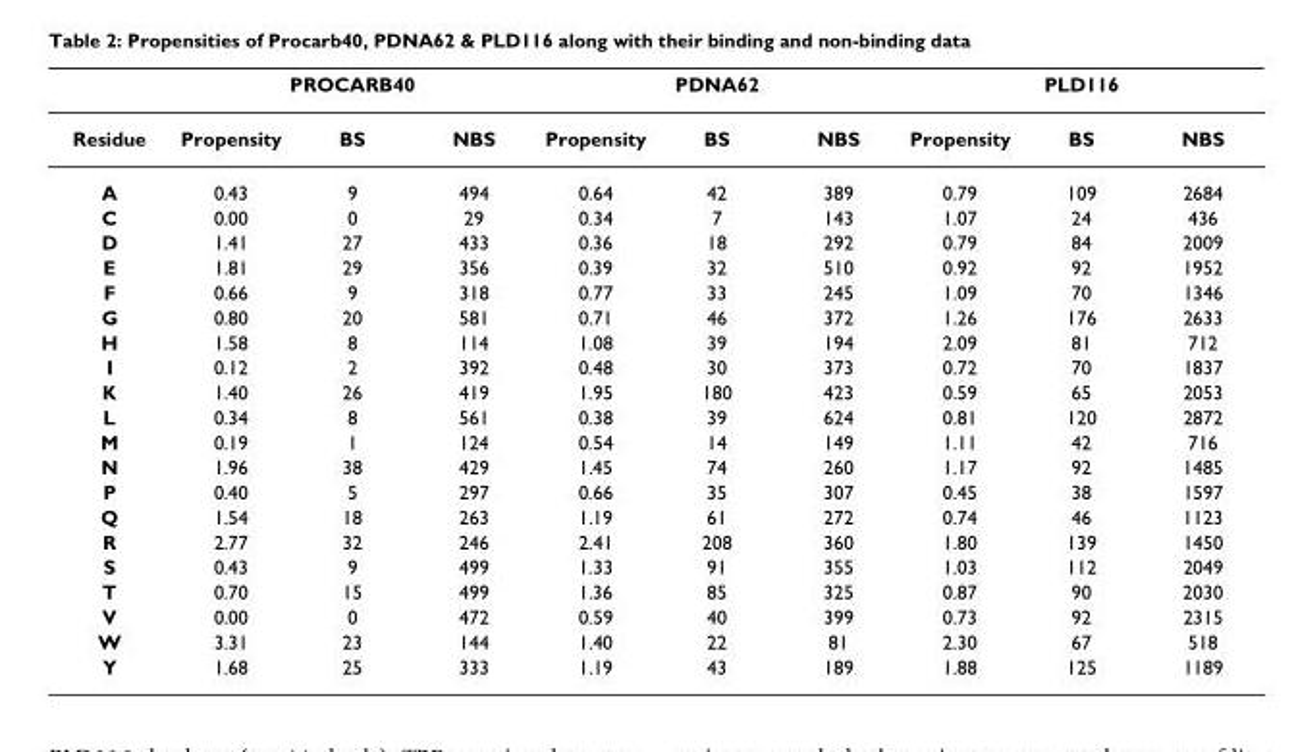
<table><thead><tr><td rowspan="2">Residue</td><td colspan="3">PROCARB40</td><td colspan="3">PDNA62</td><td colspan="3">PLD116</td></tr><tr><td>Propensity</td><td>BS</td><td>NBS</td><td>Propensity</td><td>BS</td><td>NBS</td><td>Propensity</td><td>BS</td><td>NBS</td></tr></thead><tbody><tr><td>A</td><td>0.43</td><td>9</td><td>494</td><td>0.64</td><td>42</td><td>389</td><td>0.79</td><td>109</td><td>2684</td></tr><tr><td>C</td><td>0.00</td><td>0</td><td>29</td><td>0.34</td><td>7</td><td>143</td><td>1.07</td><td>24</td><td>436</td></tr><tr><td>D</td><td>1.41</td><td>27</td><td>433</td><td>0.36</td><td>18</td><td>292</td><td>0.79</td><td>84</td><td>2009</td></tr><tr><td>E</td><td>1.81</td><td>29</td><td>356</td><td>0.39</td><td>32</td><td>510</td><td>0.92</td><td>92</td><td>1952</td></tr><tr><td>F</td><td>0.66</td><td>9</td><td>318</td><td>0.77</td><td>33</td><td>245</td><td>1.09</td><td>70</td><td>1346</td></tr><tr><td>G</td><td>0.80</td><td>20</td><td>581</td><td>0.71</td><td>46</td><td>372</td><td>1.26</td><td>176</td><td>2633</td></tr><tr><td>H</td><td>1.58</td><td>8</td><td>114</td><td>1.08</td><td>39</td><td>194</td><td>2.09</td><td>81</td><td>712</td></tr><tr><td>I</td><td>0.12</td><td>2</td><td>392</td><td>0.48</td><td>30</td><td>373</td><td>0.72</td><td>70</td><td>1837</td></tr><tr><td>K</td><td>1.40</td><td>26</td><td>419</td><td>1.95</td><td>180</td><td>423</td><td>0.59</td><td>65</td><td>2053</td></tr><tr><td>L</td><td>0.34</td><td>8</td><td>561</td><td>0.38</td><td>39</td><td>624</td><td>0.81</td><td>120</td><td>2872</td></tr><tr><td>M</td><td>0.19</td><td>1</td><td>124</td><td>0.54</td><td>14</td><td>149</td><td>1.11</td><td>42</td><td>716</td></tr><tr><td>N</td><td>1.96</td><td>38</td><td>429</td><td>1.45</td><td>74</td><td>260</td><td>1.17</td><td>92</td><td>1485</td></tr><tr><td>P</td><td>0.40</td><td>5</td><td>297</td><td>0.66</td><td>35</td><td>307</td><td>0.45</td><td>38</td><td>1597</td></tr><tr><td>Q</td><td>1.54</td><td>18</td><td>263</td><td>1.19</td><td>61</td><td>272</td><td>0.74</td><td>46</td><td>1123</td></tr><tr><td>R</td><td>2.77</td><td>32</td><td>246</td><td>2.41</td><td>208</td><td>360</td><td>1.80</td><td>139</td><td>1450</td></tr><tr><td>S</td><td>0.43</td><td>9</td><td>499</td><td>1.33</td><td>91</td><td>355</td><td>1.03</td><td>112</td><td>2049</td></tr><tr><td>T</td><td>0.70</td><td>15</td><td>499</td><td>1.36</td><td>85</td><td>325</td><td>0.87</td><td>90</td><td>2030</td></tr><tr><td>V</td><td>0.00</td><td>0</td><td>472</td><td>0.59</td><td>40</td><td>399</td><td>0.73</td><td>92</td><td>2315</td></tr><tr><td>W</td><td>3.31</td><td>23</td><td>144</td><td>1.40</td><td>22</td><td>81</td><td>2.30</td><td>67</td><td>518</td></tr><tr><td>Y</td><td>1.68</td><td>25</td><td>333</td><td>1.19</td><td>43</td><td>189</td><td>1.88</td><td>125</td><td>1189</td></tr></tbody></table>